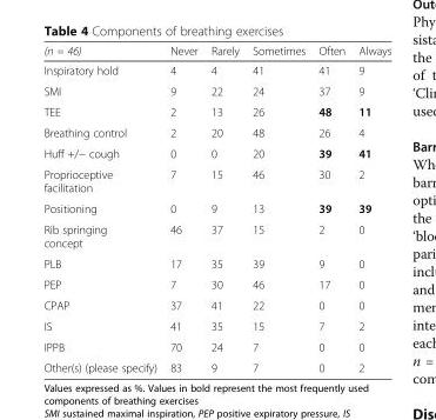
<table><thead><tr><td>(n = 46)</td><td>Never</td><td>Rarely</td><td>Sometimes</td><td>Often</td><td>Always</td></tr></thead><tbody><tr><td>Inspiratory hold</td><td>4</td><td>4</td><td>41</td><td>41</td><td>9</td></tr><tr><td>SMI</td><td>9</td><td>22</td><td>24</td><td>37</td><td>9</td></tr><tr><td>TEE</td><td>2</td><td>13</td><td>26</td><td>48</td><td>11</td></tr><tr><td>Breathing control</td><td>2</td><td>20</td><td>48</td><td>26</td><td>4</td></tr><tr><td>Huff +/− cough</td><td>0</td><td>0</td><td>20</td><td>39</td><td>41</td></tr><tr><td>Proprioceptive facilitation</td><td>7</td><td>15</td><td>46</td><td>30</td><td>2</td></tr><tr><td>Positioning</td><td>0</td><td>9</td><td>13</td><td>39</td><td>39</td></tr><tr><td>Rib springing concept</td><td>46</td><td>37</td><td>15</td><td>2</td><td>0</td></tr><tr><td>PLB</td><td>17</td><td>35</td><td>39</td><td>9</td><td>0</td></tr><tr><td>PEP</td><td>7</td><td>30</td><td>46</td><td>17</td><td>0</td></tr><tr><td>CPAP</td><td>37</td><td>41</td><td>22</td><td>0</td><td>0</td></tr><tr><td>IS</td><td>41</td><td>35</td><td>15</td><td>7</td><td>2</td></tr><tr><td>IPPB</td><td>70</td><td>24</td><td>7</td><td>0</td><td>0</td></tr><tr><td>Other(s) (please specify)</td><td>83</td><td>9</td><td>7</td><td>0</td><td>2</td></tr></tbody></table>